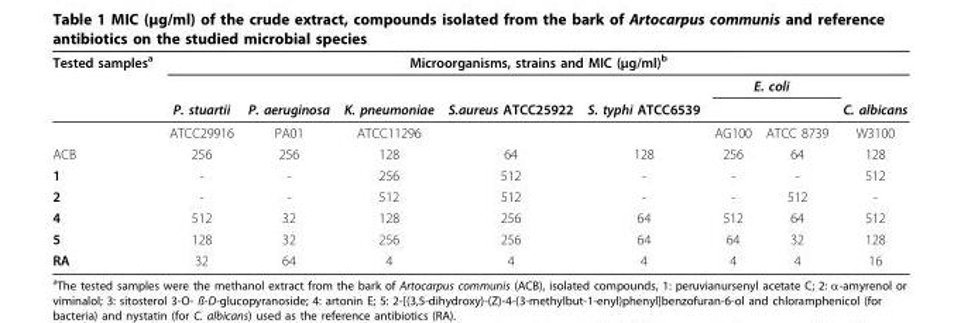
<table><thead><tr><td rowspan="3">Tested samples<sup>a</sup></td><td colspan="8">Microorganisms, strains and MIC (μg/ml)<sup>b</sup></td></tr><tr><td rowspan="2">P. stuartii</td><td rowspan="2">P. aeruginosa</td><td rowspan="2">K. pneumoniae</td><td rowspan="2">S.aureus ATCC25922</td><td rowspan="2">S. typhi ATCC6539</td><td colspan="2">E. coli</td><td rowspan="2">C. albicans</td></tr><tr><td></td><td></td></tr></thead><tbody><tr><td></td><td>ATCC29916</td><td>PA01</td><td>ATCC11296</td><td></td><td></td><td>AG100</td><td>ATCC 8739</td><td>W3100</td></tr><tr><td>ACB</td><td>256</td><td>256</td><td>128</td><td>64</td><td>128</td><td>256</td><td>64</td><td>128</td></tr><tr><td>1</td><td>-</td><td>-</td><td>256</td><td>512</td><td>-</td><td>-</td><td>-</td><td>512</td></tr><tr><td>2</td><td>-</td><td>-</td><td>512</td><td>512</td><td>-</td><td>-</td><td>512</td><td>-</td></tr><tr><td>4</td><td>512</td><td>32</td><td>128</td><td>256</td><td>64</td><td>512</td><td>64</td><td>512</td></tr><tr><td>5</td><td>128</td><td>32</td><td>256</td><td>256</td><td>64</td><td>64</td><td>32</td><td>128</td></tr><tr><td>RA</td><td>32</td><td>64</td><td>4</td><td>4</td><td>4</td><td>4</td><td>4</td><td>16</td></tr></tbody></table>